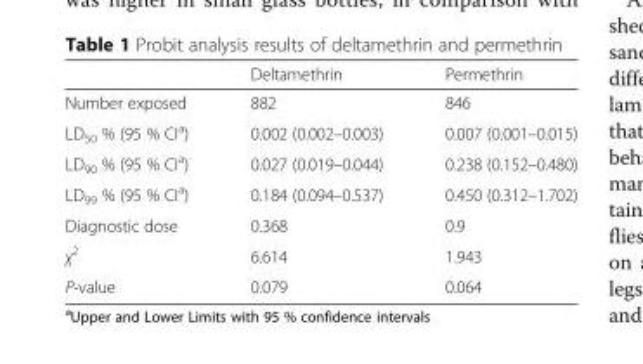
<table><thead><tr><td></td><td>Deltamethrin</td><td>Permethrin</td></tr></thead><tbody><tr><td>Number exposed</td><td>882</td><td>846</td></tr><tr><td>LD<sub>50</sub> % (95 % CI<sup>a</sup>)</td><td>0.002 (0.002–0.003)</td><td>0.007 (0.001–0.015)</td></tr><tr><td>LD<sub>90</sub> % (95 % CI<sup>a</sup>)</td><td>0.027 (0.019–0.044)</td><td>0.238 (0.152–0.480)</td></tr><tr><td>LD<sub>99</sub> % (95 % CI<sup>a</sup>)</td><td>0.184 (0.094–0.537)</td><td>0.450 (0.312–1.702)</td></tr><tr><td>Diagnostic dose</td><td>0.368</td><td>0.9</td></tr><tr><td>χ<sup>2</sup></td><td>6.614</td><td>1.943</td></tr><tr><td>P-value</td><td>0.079</td><td>0.064</td></tr></tbody></table>